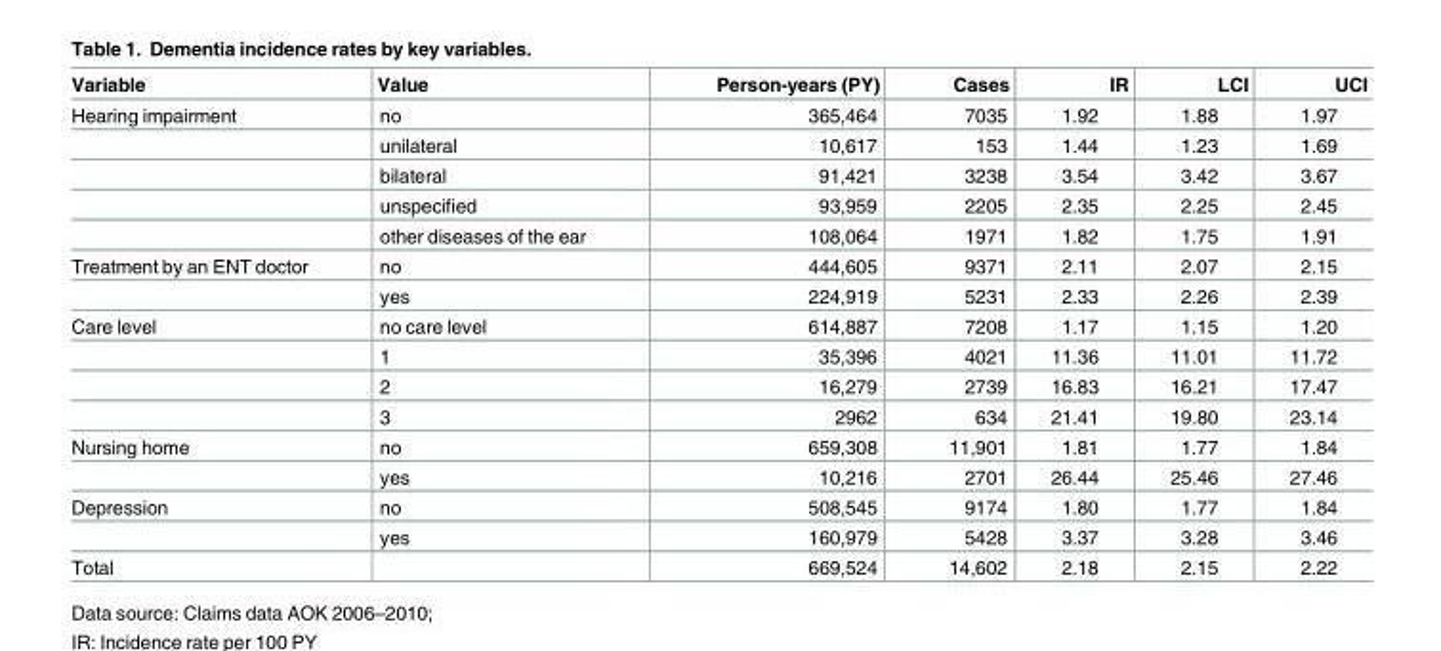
<table><thead><tr><td>Variable</td><td>Value</td><td>Person-years (PY)</td><td>Cases</td><td>IR</td><td>LCI</td><td>UCI</td></tr></thead><tbody><tr><td rowspan="5">Hearing impairment</td><td>no</td><td>365,464</td><td>7035</td><td>1.92</td><td>1.88</td><td>1.97</td></tr><tr><td>unilateral</td><td>10,617</td><td>153</td><td>1.44</td><td>1.23</td><td>1.69</td></tr><tr><td>bilateral</td><td>91,421</td><td>3238</td><td>3.54</td><td>3.42</td><td>3.67</td></tr><tr><td>unspecified</td><td>93,959</td><td>2205</td><td>2.35</td><td>2.25</td><td>2.45</td></tr><tr><td>other diseases of the ear</td><td>108,064</td><td>1971</td><td>1.82</td><td>1.75</td><td>1.91</td></tr><tr><td rowspan="2">Treatment by an ENT doctor</td><td>no</td><td>444,605</td><td>9371</td><td>2.11</td><td>2.07</td><td>2.15</td></tr><tr><td>yes</td><td>224,919</td><td>5231</td><td>2.33</td><td>2.26</td><td>2.39</td></tr><tr><td rowspan="4">Care level</td><td>no care level</td><td>614,887</td><td>7208</td><td>1.17</td><td>1.15</td><td>1.20</td></tr><tr><td>1</td><td>35,396</td><td>4021</td><td>11.36</td><td>11.01</td><td>11.72</td></tr><tr><td>2</td><td>16,279</td><td>2739</td><td>16.83</td><td>16.21</td><td>17.47</td></tr><tr><td>3</td><td>2962</td><td>634</td><td>21.41</td><td>19.80</td><td>23.14</td></tr><tr><td rowspan="2">Nursing home</td><td>no</td><td>659,308</td><td>11,901</td><td>1.81</td><td>1.77</td><td>1.84</td></tr><tr><td>yes</td><td>10,216</td><td>2701</td><td>26.44</td><td>25.46</td><td>27.46</td></tr><tr><td rowspan="2">Depression</td><td>no</td><td>508,545</td><td>9174</td><td>1.80</td><td>1.77</td><td>1.84</td></tr><tr><td>yes</td><td>160,979</td><td>5428</td><td>3.37</td><td>3.28</td><td>3.46</td></tr><tr><td>Total</td><td></td><td>669,524</td><td>14,602</td><td>2.18</td><td>2.15</td><td>2.22</td></tr></tbody></table>